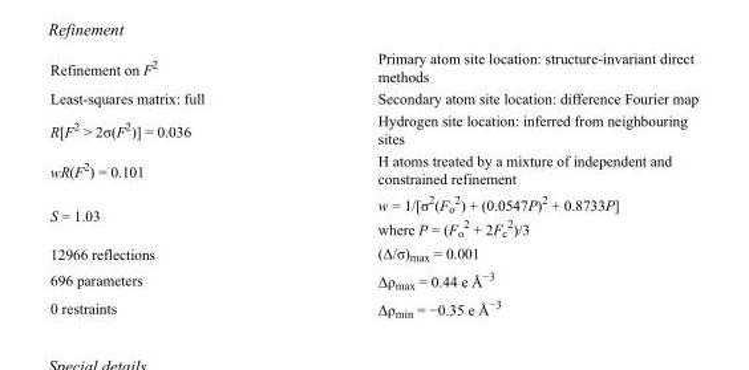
<table><tbody><tr><td>Refinement on F<sup>2</sup></td><td>Primary atom site location: structure-invariant direct methods</td></tr><tr><td>Least-squares matrix: full</td><td>Secondary atom site location: difference Fourier map</td></tr><tr><td>R[F<sup>2</sup> &gt; 2σ(F<sup>2</sup>)] = 0.036</td><td>Hydrogen site location: inferred from neighbouring sites</td></tr><tr><td>wR(F<sup>2</sup>) = 0.101</td><td>H atoms treated by a mixture of independent and constrained refinement</td></tr><tr><td>S = 1.03</td><td>w = 1/[σ<sup>2</sup>(F<sub>o</sub> <sup>2</sup>) + (0.0547P)<sup>2</sup> + 0.8733P] where P = (F<sub>o</sub> <sup>2</sup> + 2F<sub>c</sub> <sup>2</sup>)/3</td></tr><tr><td>12966 reflections</td><td>(Δ/σ)<sub>max</sub> = 0.001</td></tr><tr><td>696 parameters</td><td>Δρ<sub>max</sub> = 0.44 e Å<sup>−3</sup></td></tr><tr><td>0 restraints</td><td>Δρ<sub>min</sub> = −0.35 e Å<sup>−3</sup></td></tr></tbody></table>